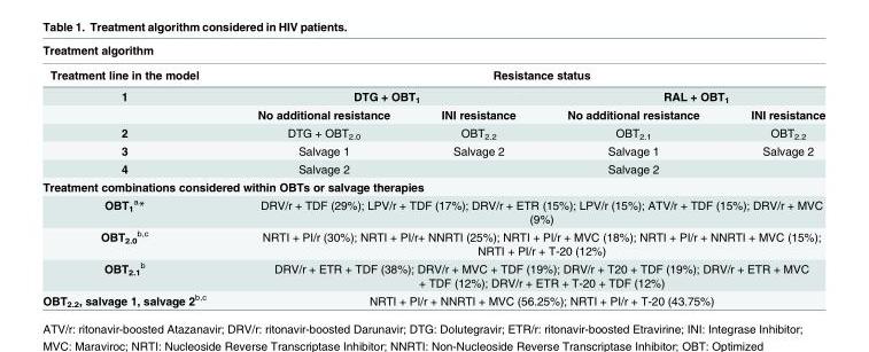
<table><thead><tr><td colspan="5">Treatment algorithm</td></tr><tr><td rowspan="3">Treatment line in the model 1</td><td colspan="4">Resistance status</td></tr><tr><td colspan="2">DTG + OBT<sub>1</sub></td><td colspan="2">RAL + OBT<sub>1</sub></td></tr><tr><td>No additional resistance</td><td>INI resistance</td><td>No additional resistance</td><td>INI resistance</td></tr></thead><tbody><tr><td>2</td><td>DTG + OBT<sub>2.0</sub></td><td>OBT<sub>2.2</sub></td><td>OBT<sub>2.1</sub></td><td>OBT<sub>2.2</sub></td></tr><tr><td>3</td><td>Salvage 1</td><td>Salvage 2</td><td>Salvage 1</td><td>Salvage 2</td></tr><tr><td>4</td><td>Salvage 2</td><td></td><td>Salvage 2</td><td></td></tr><tr><td colspan="5">Treatment combinations considered within OBTs or salvage therapies</td></tr><tr><td>OBT<sub>1</sub> <sup>a</sup>*</td><td colspan="4">DRV/r + TDF (29%); LPV/r + TDF (17%); DRV/r + ETR (15%); LPV/r (15%); ATV/r + TDF (15%); DRV/r + MVC (9%)</td></tr><tr><td>OBT<sub>2.0</sub> <sup>b,c</sup></td><td colspan="4">NRTI + PI/r (30%); NRTI + PI/r+ NNRTI (25%); NRTI + PI/r + MVC (18%); NRTI + PI/r + NNRTI + MVC (15%); NRTI + PI/r + T-20 (12%)</td></tr><tr><td>OBT<sub>2.1</sub> <sup>b</sup></td><td colspan="4">DRV/r + ETR + TDF (38%); DRV/r + MVC + TDF (19%); DRV/r + T20 + TDF (19%); DRV/r + ETR + MVC + TDF (12%); DRV/r + ETR + T-20 + TDF (12%)</td></tr><tr><td>OBT<sub>2.2</sub>, salvage 1, salvage 2<sup>b,c</sup></td><td colspan="4">NRTI + PI/r + NNRTI + MVC (56.25%); NRTI + PI/r + T-20 (43.75%)</td></tr></tbody></table>